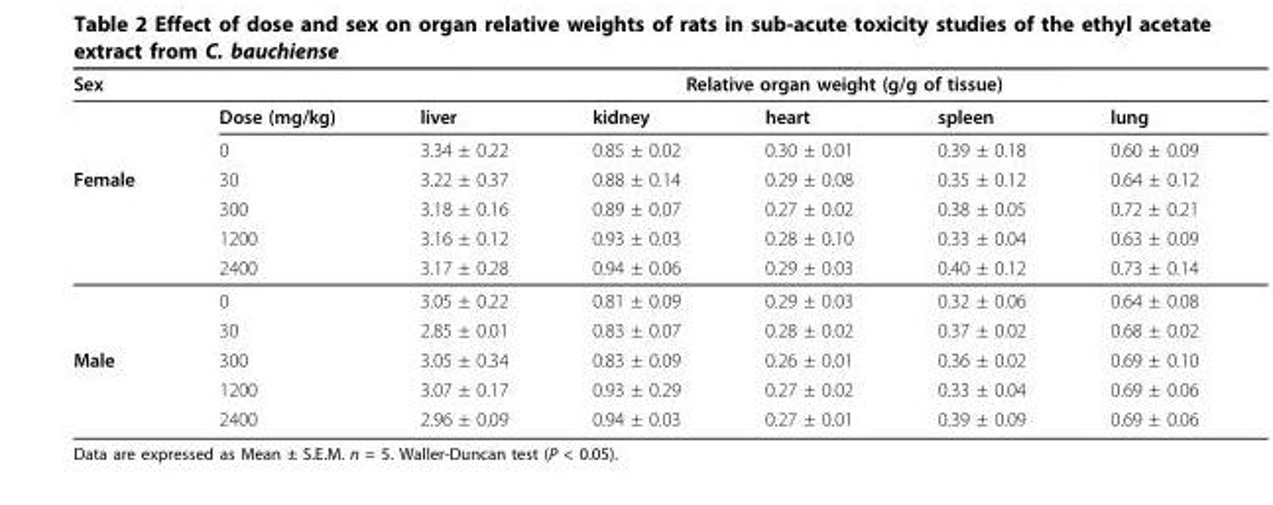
<table><thead><tr><td rowspan="2">Sex</td><td rowspan="2">Dose (mg/kg)</td><td colspan="5">Relative organ weight (g/g of tissue)</td></tr><tr><td>liver</td><td>kidney</td><td>heart</td><td>spleen</td><td>lung</td></tr></thead><tbody><tr><td></td><td>0</td><td>3.34 ± 0.22</td><td>0.85 ± 0.02</td><td>0.30 ± 0.01</td><td>0.39 ± 0.18</td><td>0.60 ± 0.09</td></tr><tr><td rowspan="6">Female</td><td>30</td><td>3.22 ± 0.37</td><td>0.88 ± 0.14</td><td>0.29 ± 0.08</td><td>0.35 ± 0.12</td><td>0.64 ± 0.12</td></tr><tr><td>300</td><td>3.18 ± 0.16</td><td>0.89 ± 0.07</td><td>0.27 ± 0.02</td><td>0.38 ± 0.05</td><td>0.72 ± 0.21</td></tr><tr><td>1200</td><td>3.16 ± 0.12</td><td>0.93 ± 0.03</td><td>0.28 ± 0.10</td><td>0.33 ± 0.04</td><td>0.63 ± 0.09</td></tr><tr><td>2400</td><td>3.17 ± 0.28</td><td>0.94 ± 0.06</td><td>0.29 ± 0.03</td><td>0.40 ± 0.12</td><td>0.73 ± 0.14</td></tr><tr><td>0</td><td>3.05 ± 0.22</td><td>0.81 ± 0.09</td><td>0.29 ± 0.03</td><td>0.32 ± 0.06</td><td>0.64 ± 0.08</td></tr><tr><td>30</td><td>2.85 ± 0.01</td><td>0.83 ± 0.07</td><td>0.28 ± 0.02</td><td>0.37 ± 0.02</td><td>0.68 ± 0.02</td></tr><tr><td rowspan="3">Male</td><td>300</td><td>3.05 ± 0.34</td><td>0.83 ± 0.09</td><td>0.26 ± 0.01</td><td>0.36 ± 0.02</td><td>0.69 ± 0.10</td></tr><tr><td>1200</td><td>3.07 ± 0.17</td><td>0.93 ± 0.29</td><td>0.27 ± 0.02</td><td>0.33 ± 0.04</td><td>0.69 ± 0.06</td></tr><tr><td>2400</td><td>2.96 ± 0.09</td><td>0.94 ± 0.03</td><td>0.27 ± 0.01</td><td>0.39 ± 0.09</td><td>0.69 ± 0.06</td></tr></tbody></table>